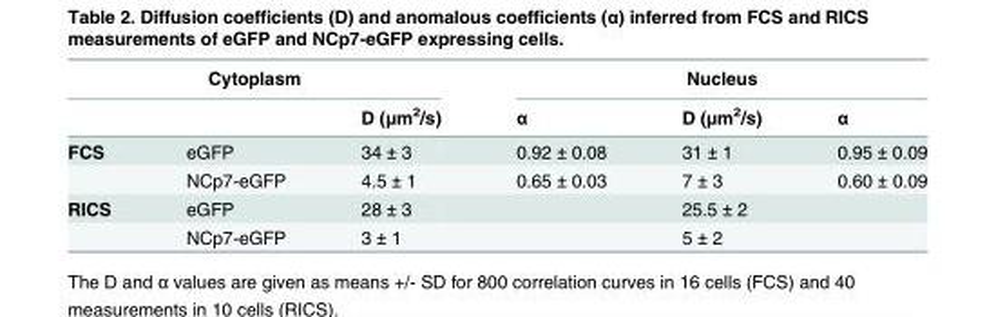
<table><thead><tr><td colspan="3">Cytoplasm</td><td colspan="3">Nucleus</td></tr><tr><td></td><td></td><td>D (μm<sup>2</sup>/s)</td><td>α</td><td>D (μm<sup>2</sup>/s)</td><td>α</td></tr></thead><tbody><tr><td rowspan="2">FCS</td><td>eGFP</td><td>34 ± 3</td><td>0.92 ± 0.08</td><td>31 ± 1</td><td>0.95 ± 0.09</td></tr><tr><td>NCp7-eGFP</td><td>4.5 ± 1</td><td>0.65 ± 0.03</td><td>7 ± 3</td><td>0.60 ± 0.09</td></tr><tr><td rowspan="2">RICS</td><td>eGFP</td><td>28 ± 3</td><td></td><td>25.5 ± 2</td><td></td></tr><tr><td>NCp7-eGFP</td><td>3 ± 1</td><td></td><td>5 ± 2</td><td></td></tr></tbody></table>